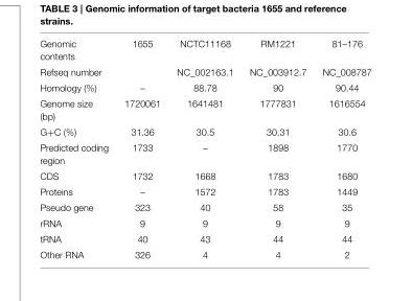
<table><tbody><tr><td>Genomic contents</td><td>1655</td><td>NCTC11168</td><td>RM1221</td><td>81–176</td></tr><tr><td>Refseq number</td><td></td><td>NC_002163.1</td><td>NC_003912.7</td><td>NC_008787</td></tr><tr><td>Homology (%)</td><td>–</td><td>88.78</td><td>90</td><td>90.44</td></tr><tr><td>Genome size (bp)</td><td>1720061</td><td>1641481</td><td>1777831</td><td>1616554</td></tr><tr><td>G+C (%)</td><td>31.36</td><td>30.5</td><td>30.31</td><td>30.6</td></tr><tr><td>Predicted coding region</td><td>1733</td><td>–</td><td>1898</td><td>1770</td></tr><tr><td>CDS</td><td>1732</td><td>1668</td><td>1783</td><td>1680</td></tr><tr><td>Proteins</td><td>–</td><td>1572</td><td>1783</td><td>1449</td></tr><tr><td>Pseudo gene</td><td>323</td><td>40</td><td>58</td><td>35</td></tr><tr><td>rRNA</td><td>9</td><td>9</td><td>9</td><td>9</td></tr><tr><td>tRNA</td><td>40</td><td>43</td><td>44</td><td>44</td></tr><tr><td>Other RNA</td><td>326</td><td>4</td><td>4</td><td>2</td></tr></tbody></table>